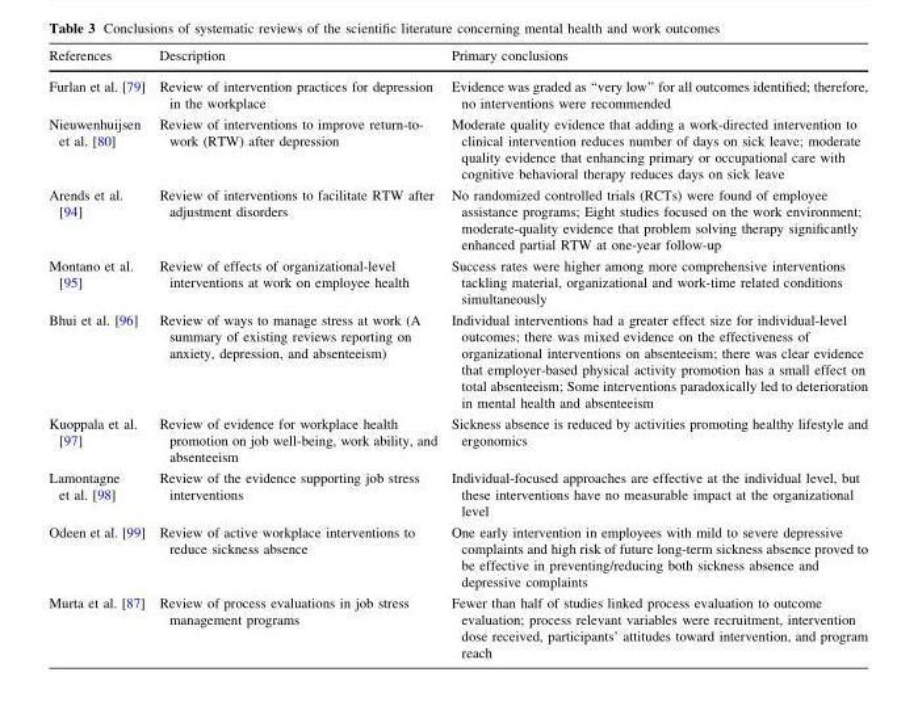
<table><thead><tr><td>References</td><td>Description</td><td>Primary conclusions</td></tr></thead><tbody><tr><td>Furlan et al. [79]</td><td>Review of intervention practices for depression in the workplace</td><td>Evidence was graded as ‘‘very low’’ for all outcomes identified; therefore, no interventions were recommended</td></tr><tr><td>Nieuwenhuijsen et al. [80]</td><td>Review of interventions to improve return-to- work (RTW) after depression</td><td>Moderate quality evidence that adding a work-directed intervention to clinical intervention reduces number of days on sick leave; moderate quality evidence that enhancing primary or occupational care with cognitive behavioral therapy reduces days on sick leave</td></tr><tr><td>Arends et al. [94]</td><td>Review of interventions to facilitate RTW after adjustment disorders</td><td>No randomized controlled trials (RCTs) were found of employee assistance programs; Eight studies focused on the work environment; moderate-quality evidence that problem solving therapy significantly enhanced partial RTW at one-year follow-up</td></tr><tr><td>Montano et al. [95]</td><td>Review of effects of organizational-level interventions at work on employee health</td><td>Success rates were higher among more comprehensive interventions tackling material, organizational and work-time related conditions simultaneously</td></tr><tr><td>Bhui et al. [96]</td><td>Review of ways to manage stress at work (A summary of existing reviews reporting on anxiety, depression, and absenteeism)</td><td>Individual interventions had a greater effect size for individual-level outcomes; there was mixed evidence on the effectiveness of organizational interventions on absenteeism; there was clear evidence that employer-based physical activity promotion has a small effect on total absenteeism; Some interventions paradoxically led to deterioration in mental health and absenteeism</td></tr><tr><td>Kuoppala et al. [97]</td><td>Review of evidence for workplace health promotion on job well-being, work ability, and absenteeism</td><td>Sickness absence is reduced by activities promoting healthy lifestyle and ergonomics</td></tr><tr><td>Lamontagne et al. [98]</td><td>Review of the evidence supporting job stress interventions</td><td>Individual-focused approaches are effective at the individual level, but these interventions have no measurable impact at the organizational level</td></tr><tr><td>Odeen et al. [99]</td><td>Review of active workplace interventions to reduce sickness absence</td><td>One early intervention in employees with mild to severe depressive complaints and high risk of future long-term sickness absence proved to be effective in preventing/reducing both sickness absence and depressive complaints</td></tr><tr><td>Murta et al. [87]</td><td>Review of process evaluations in job stress management programs</td><td>Fewer than half of studies linked process evaluation to outcome evaluation; process relevant variables were recruitment, intervention dose received, participants’ attitudes toward intervention, and program reach</td></tr></tbody></table>